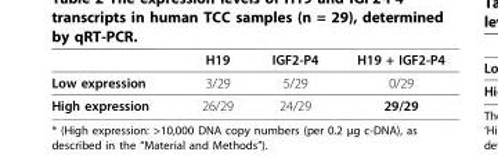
<table><thead><tr><td></td><td>H19</td><td>IGF2-P4</td><td>H19 + IGF2-P4</td></tr></thead><tbody><tr><td>Low expression</td><td>3/29</td><td>5/29</td><td>0/29</td></tr><tr><td>High expression</td><td>26/29</td><td>24/29</td><td>29/29</td></tr></tbody></table>